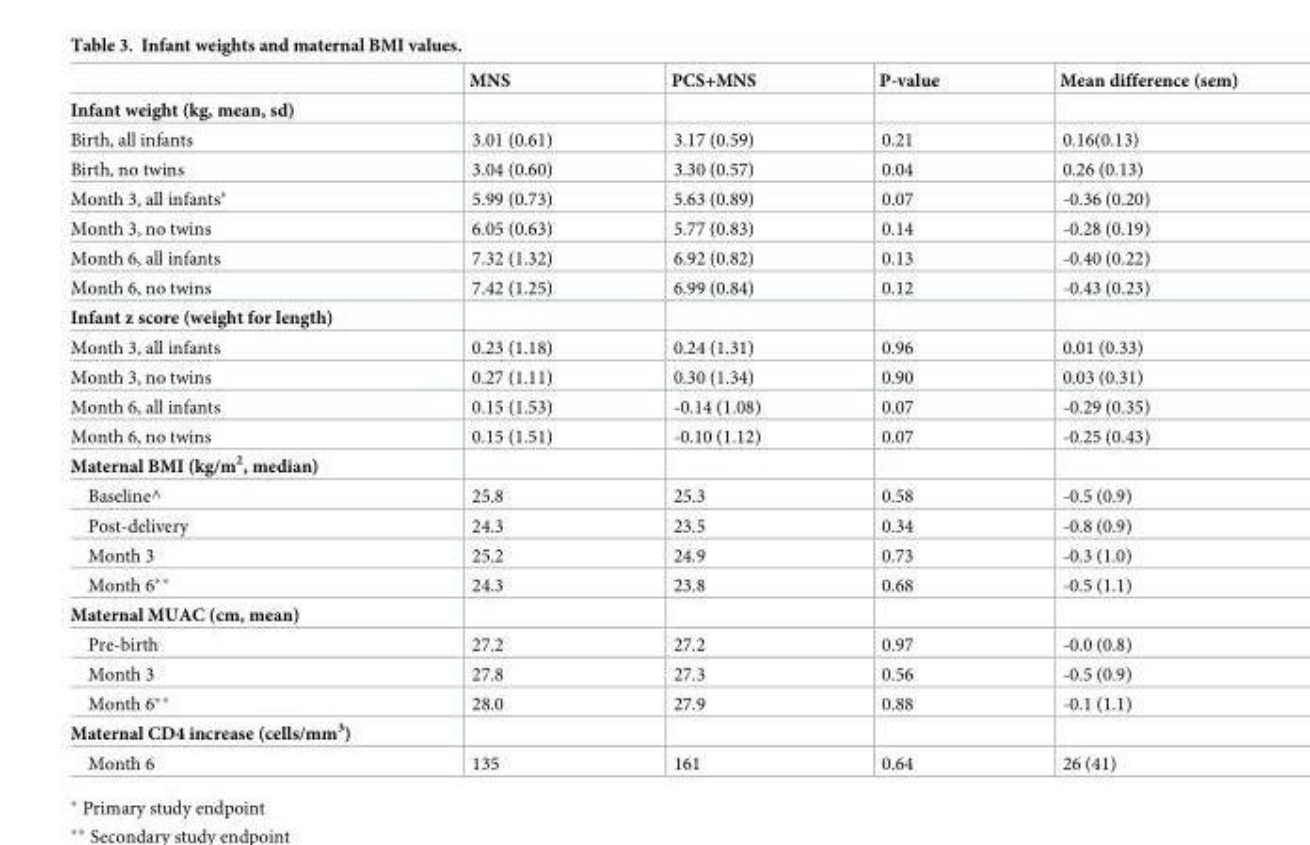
<table><thead><tr><td></td><td>MNS</td><td>PCS+MNS</td><td>P-value</td><td>Mean difference (sem)</td></tr></thead><tbody><tr><td colspan="5">Infant weight (kg, mean, sd)</td></tr><tr><td>Birth, all infants</td><td>3.01 (0.61)</td><td>3.17 (0.59)</td><td>0.21</td><td>0.16(0.13)</td></tr><tr><td>Birth, no twins</td><td>3.04 (0.60)</td><td>3.30 (0.57)</td><td>0.04</td><td>0.26 (0.13)</td></tr><tr><td>Month 3, all infants*</td><td>5.99 (0.73)</td><td>5.63 (0.89)</td><td>0.07</td><td>-0.36 (0.20)</td></tr><tr><td>Month 3, no twins</td><td>6.05 (0.63)</td><td>5.77 (0.83)</td><td>0.14</td><td>-0.28 (0.19)</td></tr><tr><td>Month 6, all infants</td><td>7.32 (1.32)</td><td>6.92 (0.82)</td><td>0.13</td><td>-0.40 (0.22)</td></tr><tr><td>Month 6, no twins</td><td>7.42 (1.25)</td><td>6.99 (0.84)</td><td>0.12</td><td>-0.43 (0.23)</td></tr><tr><td colspan="5">Infant z score (weight for length)</td></tr><tr><td>Month 3, all infants</td><td>0.23 (1.18)</td><td>0.24 (1.31)</td><td>0.96</td><td>0.01 (0.33)</td></tr><tr><td>Month 3, no twins</td><td>0.27 (1.11)</td><td>0.30 (1.34)</td><td>0.90</td><td>0.03 (0.31)</td></tr><tr><td>Month 6, all infants</td><td>0.15 (1.53)</td><td>-0.14 (1.08)</td><td>0.07</td><td>-0.29 (0.35)</td></tr><tr><td>Month 6, no twins</td><td>0.15 (1.51)</td><td>-0.10 (1.12)</td><td>0.07</td><td>-0.25 (0.43)</td></tr><tr><td colspan="5">Maternal BMI (kg/m<sup>2</sup>, median)</td></tr><tr><td>Baseline^</td><td>25.8</td><td>25.3</td><td>0.58</td><td>-0.5 (0.9)</td></tr><tr><td>Post-delivery</td><td>24.3</td><td>23.5</td><td>0.34</td><td>-0.8 (0.9)</td></tr><tr><td>Month 3</td><td>25.2</td><td>24.9</td><td>0.73</td><td>-0.3 (1.0)</td></tr><tr><td>Month 6**</td><td>24.3</td><td>23.8</td><td>0.68</td><td>-0.5 (1.1)</td></tr><tr><td colspan="5">Maternal MUAC (cm, mean)</td></tr><tr><td>Pre-birth</td><td>27.2</td><td>27.2</td><td>0.97</td><td>-0.0 (0.8)</td></tr><tr><td>Month 3</td><td>27.8</td><td>27.3</td><td>0.56</td><td>-0.5 (0.9)</td></tr><tr><td>Month 6**</td><td>28.0</td><td>27.9</td><td>0.88</td><td>-0.1 (1.1)</td></tr><tr><td colspan="5">Maternal CD4 increase (cells/mm<sup>3</sup>)</td></tr><tr><td>Month 6</td><td>135</td><td>161</td><td>0.64</td><td>26 (41)</td></tr></tbody></table>